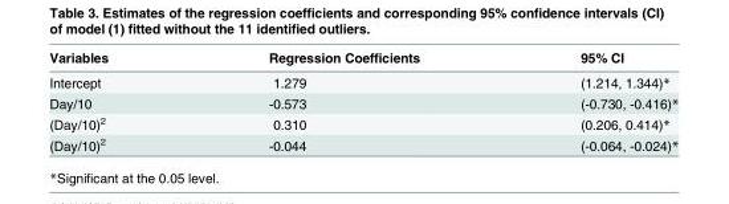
<table><thead><tr><td>Variables</td><td>Regression Coefficients</td><td>95% CI</td></tr></thead><tbody><tr><td>Intercept</td><td>1.279</td><td>(1.214, 1.344)*</td></tr><tr><td>Day/10</td><td>-0.573</td><td>(-0.730, -0.416)*</td></tr><tr><td>(Day/10)<sup>2</sup></td><td>0.310</td><td>(0.206, 0.414)*</td></tr><tr><td>(Day/10)<sup>2</sup></td><td>-0.044</td><td>(-0.064, -0.024)*</td></tr></tbody></table>